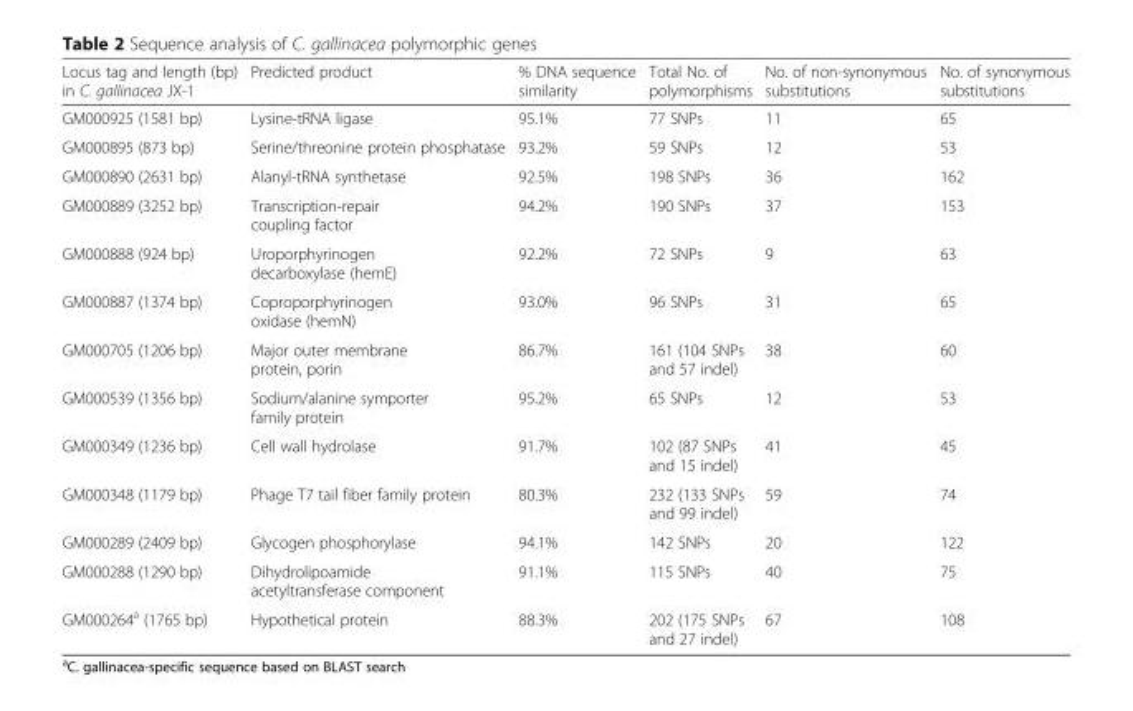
<table><thead><tr><td>Locus tag and length (bp) in C. gallinacea JX-1</td><td>Predicted product</td><td>% DNA sequence similarity</td><td>Total No. of polymorphisms</td><td>No. of non-synonymous substitutions</td><td>No. of synonymous substitutions</td></tr></thead><tbody><tr><td>GM000925 (1581 bp)</td><td>Lysine-tRNA ligase</td><td>95.1%</td><td>77 SNPs</td><td>11</td><td>65</td></tr><tr><td>GM000895 (873 bp)</td><td>Serine/threonine protein phosphatase</td><td>93.2%</td><td>59 SNPs</td><td>12</td><td>53</td></tr><tr><td>GM000890 (2631 bp)</td><td>Alanyl-tRNA synthetase</td><td>92.5%</td><td>198 SNPs</td><td>36</td><td>162</td></tr><tr><td>GM000889 (3252 bp)</td><td>Transcription-repair coupling factor</td><td>94.2%</td><td>190 SNPs</td><td>37</td><td>153</td></tr><tr><td>GM000888 (924 bp)</td><td>Uroporphyrinogen decarboxylase (hemE)</td><td>92.2%</td><td>72 SNPs</td><td>9</td><td>63</td></tr><tr><td>GM000887 (1374 bp)</td><td>Coproporphyrinogen oxidase (hemN)</td><td>93.0%</td><td>96 SNPs</td><td>31</td><td>65</td></tr><tr><td>GM000705 (1206 bp)</td><td>Major outer membrane protein, porin</td><td>86.7%</td><td>161 (104 SNPs and 57 indel)</td><td>38</td><td>60</td></tr><tr><td>GM000539 (1356 bp)</td><td>Sodium/alanine symporter family protein</td><td>95.2%</td><td>65 SNPs</td><td>12</td><td>53</td></tr><tr><td>GM000349 (1236 bp)</td><td>Cell wall hydrolase</td><td>91.7%</td><td>102 (87 SNPs and 15 indel)</td><td>41</td><td>45</td></tr><tr><td>GM000348 (1179 bp)</td><td>Phage T7 tail fiber family protein</td><td>80.3%</td><td>232 (133 SNPs and 99 indel)</td><td>59</td><td>74</td></tr><tr><td>GM000289 (2409 bp)</td><td>Glycogen phosphorylase</td><td>94.1%</td><td>142 SNPs</td><td>20</td><td>122</td></tr><tr><td>GM000288 (1290 bp)</td><td>Dihydrolipoamide acetyltransferase component</td><td>91.1%</td><td>115 SNPs</td><td>40</td><td>75</td></tr><tr><td>GM000264<sup>a</sup> (1765 bp)</td><td>Hypothetical protein</td><td>88.3%</td><td>202 (175 SNPs and 27 indel)</td><td>67</td><td>108</td></tr></tbody></table>